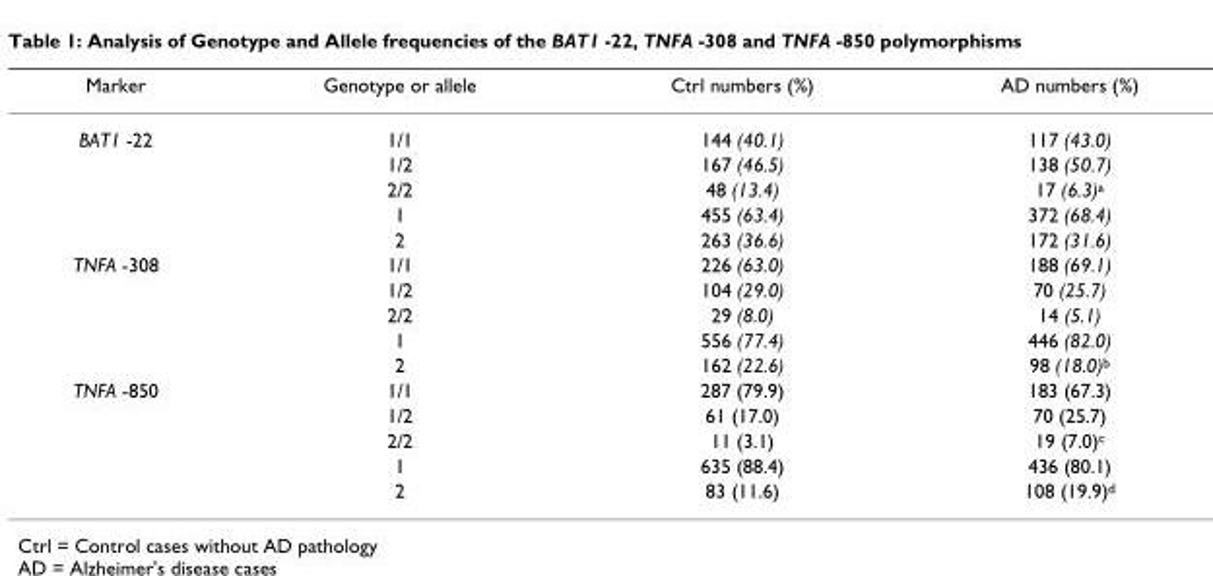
<table><thead><tr><td>Marker</td><td>Genotype or allele</td><td>Ctrl numbers (%)</td><td>AD numbers (%)</td></tr></thead><tbody><tr><td rowspan="5">BAT1 -22</td><td>1/1</td><td>144 (40.1)</td><td>117 (43.0)</td></tr><tr><td>1/2</td><td>167 (46.5)</td><td>138 (50.7)</td></tr><tr><td>2/2</td><td>48 (13.4)</td><td>17 (6.3)<sup>a</sup></td></tr><tr><td>1</td><td>455 (63.4)</td><td>372 (68.4)</td></tr><tr><td>2</td><td>263 (36.6)</td><td>172 (31.6)</td></tr><tr><td rowspan="5">TNFA -308</td><td>1/1</td><td>226 (63.0)</td><td>188 (69.1)</td></tr><tr><td>1/2</td><td>104 (29.0)</td><td>70 (25.7)</td></tr><tr><td>2/2</td><td>29 (8.0)</td><td>14 (5.1)</td></tr><tr><td>1</td><td>556 (77.4)</td><td>446 (82.0)</td></tr><tr><td>2</td><td>162 (22.6)</td><td>98 (18.0)<sup>b</sup></td></tr><tr><td rowspan="5">TNFA -850</td><td>1/1</td><td>287 (79.9)</td><td>183 (67.3)</td></tr><tr><td>1/2</td><td>61 (17.0)</td><td>70 (25.7)</td></tr><tr><td>2/2</td><td>11 (3.1)</td><td>19 (7.0)<sup>c</sup></td></tr><tr><td>1</td><td>635 (88.4)</td><td>436 (80.1)</td></tr><tr><td>2</td><td>83 (11.6)</td><td>108 (19.9)<sup>d</sup></td></tr></tbody></table>